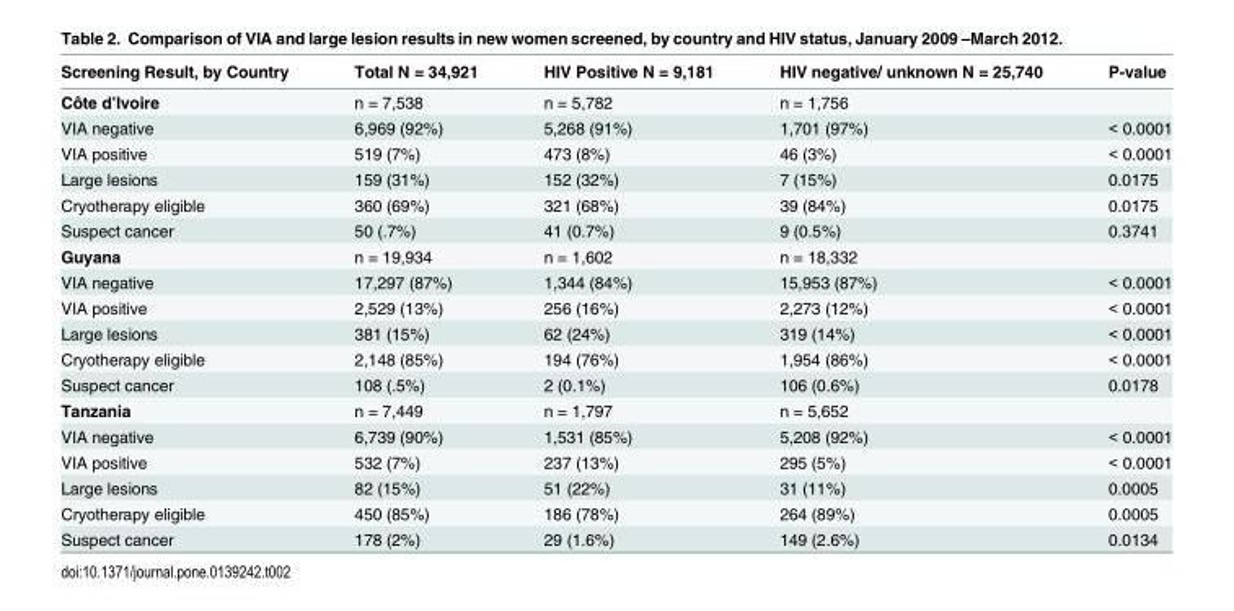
<table><thead><tr><td>Screening Result, by Country</td><td>Total N = 34,921</td><td>HIV Positive N = 9,181</td><td>HIV negative/ unknown N = 25,740</td><td>P-value</td></tr></thead><tbody><tr><td>Côte d’Ivoire</td><td>n = 7,538</td><td>n = 5,782</td><td>n = 1,756</td><td></td></tr><tr><td>VIA negative</td><td>6,969 (92%)</td><td>5,268 (91%)</td><td>1,701 (97%)</td><td>&lt; 0.0001</td></tr><tr><td>VIA positive</td><td>519 (7%)</td><td>473 (8%)</td><td>46 (3%)</td><td>&lt; 0.0001</td></tr><tr><td>Large lesions</td><td>159 (31%)</td><td>152 (32%)</td><td>7 (15%)</td><td>0.0175</td></tr><tr><td>Cryotherapy eligible</td><td>360 (69%)</td><td>321 (68%)</td><td>39 (84%)</td><td>0.0175</td></tr><tr><td>Suspect cancer</td><td>50 (.7%)</td><td>41 (0.7%)</td><td>9 (0.5%)</td><td>0.3741</td></tr><tr><td>Guyana</td><td>n = 19,934</td><td>n = 1,602</td><td>n = 18,332</td><td></td></tr><tr><td>VIA negative</td><td>17,297 (87%)</td><td>1,344 (84%)</td><td>15,953 (87%)</td><td>&lt; 0.0001</td></tr><tr><td>VIA positive</td><td>2,529 (13%)</td><td>256 (16%)</td><td>2,273 (12%)</td><td>&lt; 0.0001</td></tr><tr><td>Large lesions</td><td>381 (15%)</td><td>62 (24%)</td><td>319 (14%)</td><td>&lt; 0.0001</td></tr><tr><td>Cryotherapy eligible</td><td>2,148 (85%)</td><td>194 (76%)</td><td>1,954 (86%)</td><td>&lt; 0.0001</td></tr><tr><td>Suspect cancer</td><td>108 (.5%)</td><td>2 (0.1%)</td><td>106 (0.6%)</td><td>0.0178</td></tr><tr><td>Tanzania</td><td>n = 7,449</td><td>n = 1,797</td><td>n = 5,652</td><td></td></tr><tr><td>VIA negative</td><td>6,739 (90%)</td><td>1,531 (85%)</td><td>5,208 (92%)</td><td>&lt; 0.0001</td></tr><tr><td>VIA positive</td><td>532 (7%)</td><td>237 (13%)</td><td>295 (5%)</td><td>&lt; 0.0001</td></tr><tr><td>Large lesions</td><td>82 (15%)</td><td>51 (22%)</td><td>31 (11%)</td><td>0.0005</td></tr><tr><td>Cryotherapy eligible</td><td>450 (85%)</td><td>186 (78%)</td><td>264 (89%)</td><td>0.0005</td></tr><tr><td>Suspect cancer</td><td>178 (2%)</td><td>29 (1.6%)</td><td>149 (2.6%)</td><td>0.0134</td></tr></tbody></table>